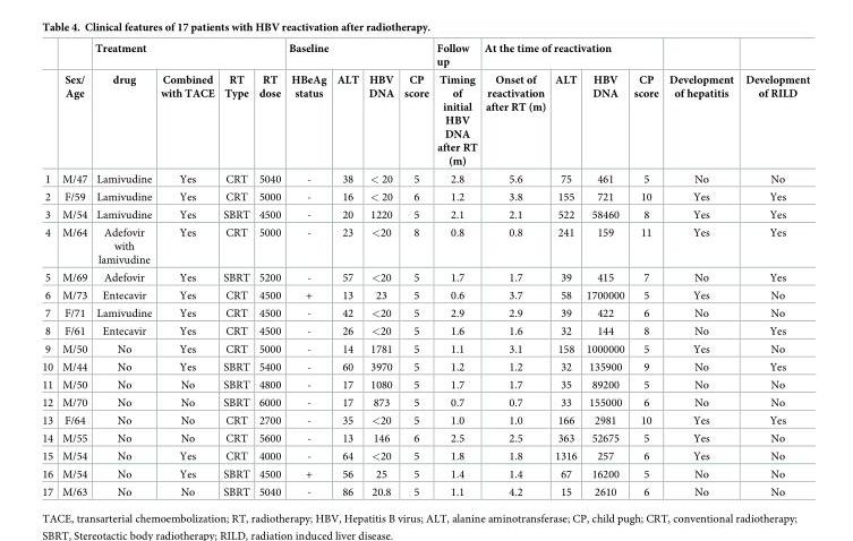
<table><thead><tr><td rowspan="2"></td><td rowspan="2">Sex/ Age</td><td colspan="4">Treatment</td><td colspan="4">Baseline</td><td rowspan="2">Follow up Timing of initial HBV DNA after RT (m)</td><td colspan="4">At the time of reactivation</td><td rowspan="2">Development of hepatitis</td><td rowspan="2">Development of RILD</td></tr><tr><td>drug</td><td>Combined with TACE</td><td>RT Type</td><td>RT dose</td><td>HBeAg status</td><td>ALT</td><td>HBV DNA</td><td>CP score</td><td>Onset of reactivation after RT (m)</td><td>ALT</td><td>HBV DNA</td><td>CP score</td></tr></thead><tbody><tr><td>1</td><td>M/47</td><td>Lamivudine</td><td>Yes</td><td>CRT</td><td>5040</td><td>-</td><td>38</td><td>&lt; 20</td><td>5</td><td>2.8</td><td>5.6</td><td>75</td><td>461</td><td>5</td><td>No</td><td>No</td></tr><tr><td>2</td><td>F/59</td><td>Lamivudine</td><td>Yes</td><td>CRT</td><td>5000</td><td>-</td><td>16</td><td>&lt; 20</td><td>6</td><td>1.2</td><td>3.8</td><td>155</td><td>721</td><td>10</td><td>Yes</td><td>Yes</td></tr><tr><td>3</td><td>M/54</td><td>Lamivudine</td><td>Yes</td><td>SBRT</td><td>4500</td><td>-</td><td>20</td><td>1220</td><td>5</td><td>2.1</td><td>2.1</td><td>522</td><td>58460</td><td>8</td><td>Yes</td><td>Yes</td></tr><tr><td>4</td><td>M/64</td><td>Adefovir with lamivudine</td><td>Yes</td><td>CRT</td><td>5000</td><td>-</td><td>23</td><td>&lt;20</td><td>8</td><td>0.8</td><td>0.8</td><td>241</td><td>159</td><td>11</td><td>Yes</td><td>Yes</td></tr><tr><td>5</td><td>M/69</td><td>Adefovir</td><td>Yes</td><td>SBRT</td><td>5200</td><td>-</td><td>57</td><td>&lt;20</td><td>5</td><td>1.7</td><td>1.7</td><td>39</td><td>415</td><td>7</td><td>No</td><td>Yes</td></tr><tr><td>6</td><td>M/73</td><td>Entecavir</td><td>Yes</td><td>CRT</td><td>4500</td><td>+</td><td>13</td><td>23</td><td>5</td><td>0.6</td><td>3.7</td><td>58</td><td>1700000</td><td>5</td><td>Yes</td><td>No</td></tr><tr><td>7</td><td>F/71</td><td>Lamivudine</td><td>Yes</td><td>CRT</td><td>4500</td><td>-</td><td>42</td><td>&lt;20</td><td>5</td><td>2.9</td><td>2.9</td><td>39</td><td>422</td><td>6</td><td>No</td><td>No</td></tr><tr><td>8</td><td>F/61</td><td>Entecavir</td><td>Yes</td><td>CRT</td><td>4500</td><td>-</td><td>26</td><td>&lt;20</td><td>5</td><td>1.6</td><td>1.6</td><td>32</td><td>144</td><td>8</td><td>No</td><td>Yes</td></tr><tr><td>9</td><td>M/50</td><td>No</td><td>Yes</td><td>CRT</td><td>5000</td><td>-</td><td>14</td><td>1781</td><td>5</td><td>1.1</td><td>3.1</td><td>158</td><td>1000000</td><td>5</td><td>Yes</td><td>No</td></tr><tr><td>10</td><td>M/44</td><td>No</td><td>Yes</td><td>SBRT</td><td>5400</td><td>-</td><td>60</td><td>3970</td><td>5</td><td>1.2</td><td>1.2</td><td>32</td><td>135900</td><td>9</td><td>No</td><td>Yes</td></tr><tr><td>11</td><td>M/50</td><td>No</td><td>No</td><td>SBRT</td><td>4800</td><td>-</td><td>17</td><td>1080</td><td>5</td><td>1.7</td><td>1.7</td><td>35</td><td>89200</td><td>5</td><td>No</td><td>No</td></tr><tr><td>12</td><td>M/70</td><td>No</td><td>No</td><td>SBRT</td><td>6000</td><td>-</td><td>17</td><td>873</td><td>5</td><td>0.7</td><td>0.7</td><td>33</td><td>155000</td><td>6</td><td>No</td><td>No</td></tr><tr><td>13</td><td>F/64</td><td>No</td><td>No</td><td>CRT</td><td>2700</td><td>-</td><td>35</td><td>&lt;20</td><td>5</td><td>1.0</td><td>1.0</td><td>166</td><td>2981</td><td>10</td><td>Yes</td><td>Yes</td></tr><tr><td>14</td><td>M/55</td><td>No</td><td>No</td><td>CRT</td><td>5600</td><td>-</td><td>13</td><td>146</td><td>6</td><td>2.5</td><td>2.5</td><td>363</td><td>52675</td><td>5</td><td>Yes</td><td>No</td></tr><tr><td>15</td><td>M/54</td><td>No</td><td>Yes</td><td>CRT</td><td>4000</td><td>-</td><td>64</td><td>&lt;20</td><td>5</td><td>1.8</td><td>1.8</td><td>1316</td><td>257</td><td>6</td><td>Yes</td><td>No</td></tr><tr><td>16</td><td>M/54</td><td>No</td><td>Yes</td><td>SBRT</td><td>4500</td><td>+</td><td>56</td><td>25</td><td>5</td><td>1.4</td><td>1.4</td><td>67</td><td>16200</td><td>5</td><td>No</td><td>No</td></tr><tr><td>17</td><td>M/63</td><td>No</td><td>No</td><td>SBRT</td><td>5040</td><td>-</td><td>86</td><td>20.8</td><td>5</td><td>1.1</td><td>4.2</td><td>15</td><td>2610</td><td>6</td><td>No</td><td>No</td></tr></tbody></table>